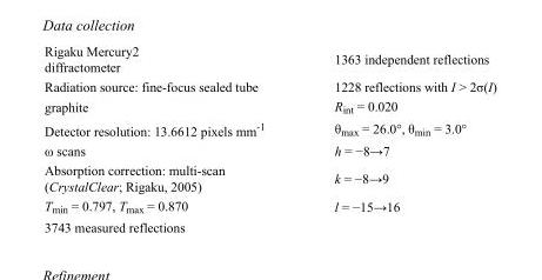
<table><tbody><tr><td>Rigaku Mercury2 diffractometer</td><td>1363 independent reflections</td></tr><tr><td>Radiation source: fine-focus sealed tube</td><td>1228 reflections with I &gt; 2σ(I)</td></tr><tr><td>graphite</td><td>R<sub>int</sub> = 0.020</td></tr><tr><td>Detector resolution: 13.6612 pixels mm<sup>-1</sup></td><td>θ<sub>max</sub> = 26.0°, θ<sub>min</sub> = 3.0°</td></tr><tr><td>ω scans</td><td>h = −8→7</td></tr><tr><td>Absorption correction: multi-scan (CrystalClear; Rigaku, 2005)</td><td>k = −8→9</td></tr><tr><td>T<sub>min</sub> = 0.797, T<sub>max</sub> = 0.870</td><td>l = −15→16</td></tr><tr><td>3743 measured reflections</td><td></td></tr></tbody></table>